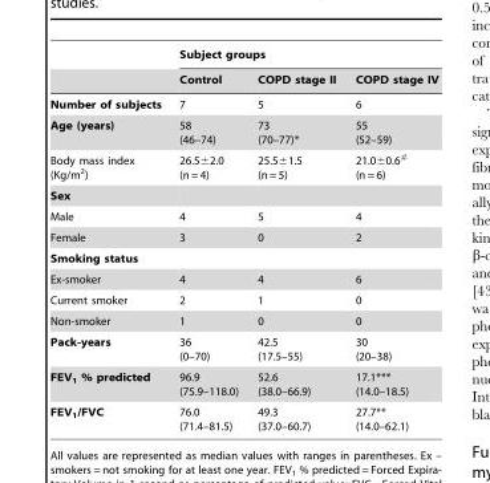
<table><thead><tr><td rowspan="2"></td><td colspan="3">Subject groups</td></tr><tr><td>Control</td><td>COPD stage II</td><td>COPD stage IV</td></tr></thead><tbody><tr><td>Number of subjects</td><td>7</td><td>5</td><td>6</td></tr><tr><td>Age (years)</td><td>58 (46–74)</td><td>73 (70–77)*</td><td>55 (52–59)</td></tr><tr><td>Body mass index (Kg/m<sup>2</sup>)</td><td>26.5±2.0 (n = 4)</td><td>25.5±1.5 (n = 5)</td><td>21.0±0.6# (n = 6)</td></tr><tr><td colspan="4">Sex</td></tr><tr><td>Male</td><td>4</td><td>5</td><td>4</td></tr><tr><td>Female</td><td>3</td><td>0</td><td>2</td></tr><tr><td colspan="4">Smoking status</td></tr><tr><td>Ex-smoker</td><td>4</td><td>4</td><td>6</td></tr><tr><td>Current smoker</td><td>2</td><td>1</td><td>0</td></tr><tr><td>Non-smoker</td><td>1</td><td>0</td><td>0</td></tr><tr><td>Pack-years</td><td>36 (0–70)</td><td>42.5 (17.5–55)</td><td>30 (20–38)</td></tr><tr><td>FEV<sub>1</sub> % predicted</td><td>96.9 (75.9–118.0)</td><td>52.6 (38.0–66.9)</td><td>17.1*** (14.0–18.5)</td></tr><tr><td>FEV<sub>1</sub>/FVC</td><td>76.0 (71.4–81.5)</td><td>49.3 (37.0–60.7)</td><td>27.7** (14.0–62.1)</td></tr></tbody></table>